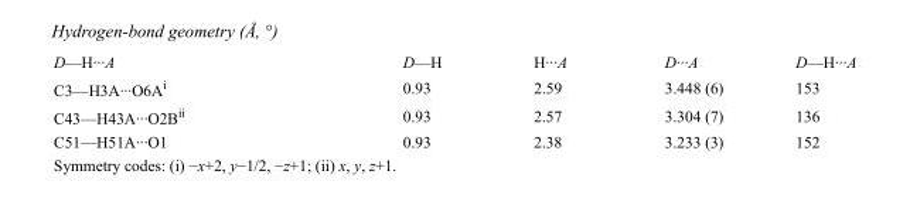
<table><tbody><tr><td>D—H···A</td><td>D—H</td><td>H···A</td><td>D···A</td><td>D—H···A</td></tr><tr><td>C3—H3A···O6A<sup>i</sup></td><td>0.93</td><td>2.59</td><td>3.448 (6)</td><td>153</td></tr><tr><td>C43—H43A···O2B<sup>ii</sup></td><td>0.93</td><td>2.57</td><td>3.304 (7)</td><td>136</td></tr><tr><td>C51—H51A···O1</td><td>0.93</td><td>2.38</td><td>3.233 (3)</td><td>152</td></tr></tbody></table>